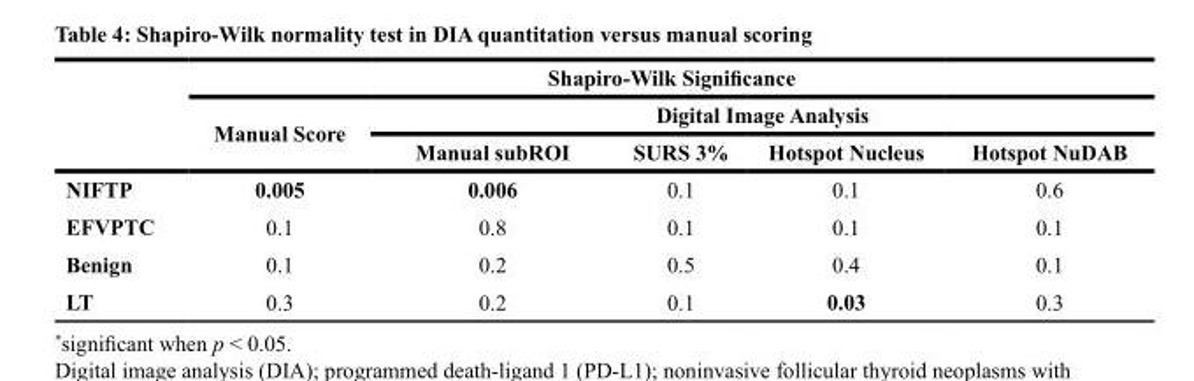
<table><thead><tr><td rowspan="3"></td><td colspan="5">Shapiro-Wilk Significance</td></tr><tr><td rowspan="2">Manual Score</td><td colspan="4">Digital Image Analysis</td></tr><tr><td>Manual subROI</td><td>SURS 3%</td><td>Hotspot Nucleus</td><td>Hotspot NuDAB</td></tr></thead><tbody><tr><td>NIFTP</td><td>0.005</td><td>0.006</td><td>0.1</td><td>0.1</td><td>0.6</td></tr><tr><td>EFVPTC</td><td>0.1</td><td>0.8</td><td>0.1</td><td>0.1</td><td>0.1</td></tr><tr><td>Benign</td><td>0.1</td><td>0.2</td><td>0.5</td><td>0.4</td><td>0.1</td></tr><tr><td>LT</td><td>0.3</td><td>0.2</td><td>0.1</td><td>0.03</td><td>0.3</td></tr></tbody></table>